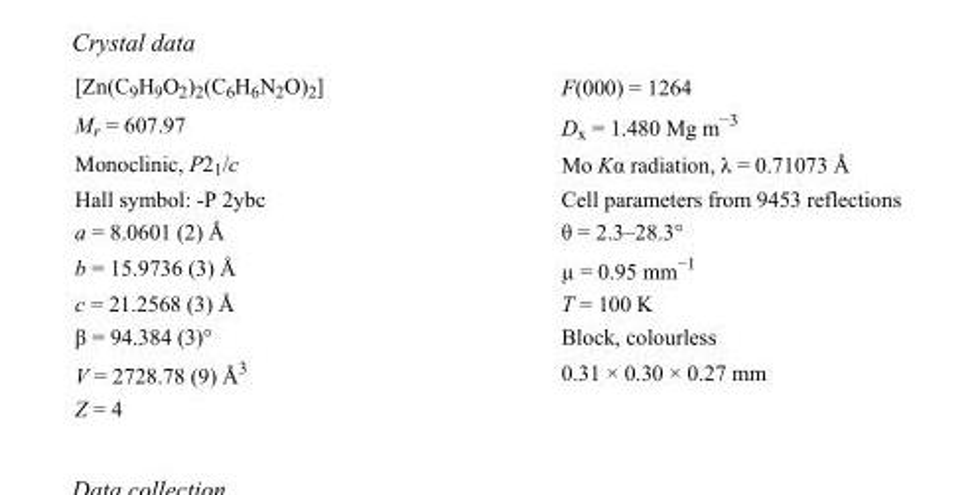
<table><tbody><tr><td>[Zn(C<sub>9</sub>H<sub>9</sub>O<sub>2</sub>)<sub>2</sub>(C<sub>6</sub>H<sub>6</sub>N<sub>2</sub>O)<sub>2</sub>]</td><td>F(000) = 1264</td></tr><tr><td>M<sub>r</sub> = 607.97</td><td>D<sub>x</sub> = 1.480 Mg m<sup>−3</sup></td></tr><tr><td>Monoclinic, P2<sub>1</sub>/c</td><td>Mo Kα radiation, λ = 0.71073 Å</td></tr><tr><td>Hall symbol: -P 2ybc</td><td>Cell parameters from 9453 reflections</td></tr><tr><td>a = 8.0601 (2) Å</td><td>θ = 2.3–28.3°</td></tr><tr><td>b = 15.9736 (3) Å</td><td>µ = 0.95 mm<sup>−1</sup></td></tr><tr><td>c = 21.2568 (3) Å</td><td>T = 100 K</td></tr><tr><td>β = 94.384 (3)°</td><td>Block, colourless</td></tr><tr><td>V = 2728.78 (9) Å<sup>3</sup></td><td>0.31 × 0.30 × 0.27 mm</td></tr><tr><td>Z = 4</td><td></td></tr></tbody></table>